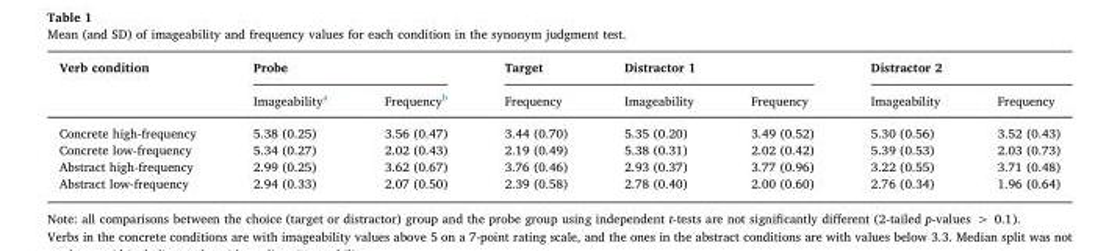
<table><thead><tr><td rowspan="2">Verb condition</td><td colspan="2">Probe</td><td rowspan="2">Target Frequency</td><td colspan="2">Distractor 1</td><td colspan="2">Distractor 2</td></tr><tr><td>Imageability<sup>a</sup></td><td>Frequency<sup>b</sup></td><td>Imageability</td><td>Frequency</td><td>Imageability</td><td>Frequency</td></tr></thead><tbody><tr><td>Concrete high-frequency</td><td>5.38 (0.25)</td><td>3.56 (0.47)</td><td>3.44 (0.70)</td><td>5.35 (0.20)</td><td>3.49 (0.52)</td><td>5.30 (0.56)</td><td>3.52 (0.43)</td></tr><tr><td>Concrete low-frequency</td><td>5.34 (0.27)</td><td>2.02 (0.43)</td><td>2.19 (0.49)</td><td>5.38 (0.31)</td><td>2.02 (0.42)</td><td>5.39 (0.53)</td><td>2.03 (0.73)</td></tr><tr><td>Abstract high-frequency</td><td>2.99 (0.25)</td><td>3.62 (0.67)</td><td>3.76 (0.46)</td><td>2.93 (0.37)</td><td>3.77 (0.96)</td><td>3.22 (0.55)</td><td>3.71 (0.48)</td></tr><tr><td>Abstract low-frequency</td><td>2.94 (0.33)</td><td>2.07 (0.50)</td><td>2.39 (0.58)</td><td>2.78 (0.40)</td><td>2.00 (0.60)</td><td>2.76 (0.34)</td><td>1.96 (0.64)</td></tr></tbody></table>